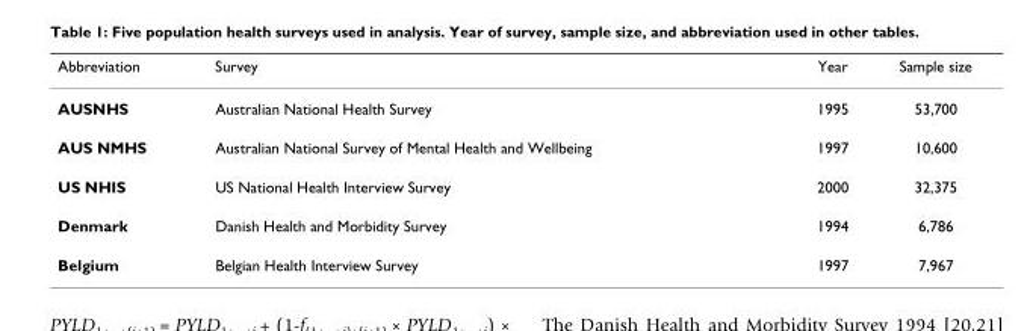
<table><thead><tr><td>Abbreviation</td><td>Survey</td><td>Year</td><td>Sample size</td></tr></thead><tbody><tr><td>AUSNHS</td><td>Australian National Health Survey</td><td>1995</td><td>53,700</td></tr><tr><td>AUS NMHS</td><td>Australian National Survey of Mental Health and Wellbeing</td><td>1997</td><td>10,600</td></tr><tr><td>US NHIS</td><td>US National Health Interview Survey</td><td>2000</td><td>32,375</td></tr><tr><td>Denmark</td><td>Danish Health and Morbidity Survey</td><td>1994</td><td>6,786</td></tr><tr><td>Belgium</td><td>Belgian Health Interview Survey</td><td>1997</td><td>7,967</td></tr></tbody></table>